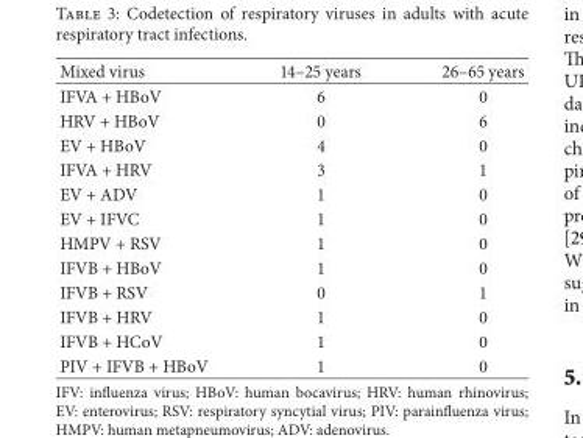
<table><thead><tr><td>Mixed virus</td><td>14–25 years</td><td>26–65 years</td></tr></thead><tbody><tr><td>IFVA + HBoV</td><td>6</td><td>0</td></tr><tr><td>HRV + HBoV</td><td>0</td><td>6</td></tr><tr><td>EV + HBoV</td><td>4</td><td>0</td></tr><tr><td>IFVA + HRV</td><td>3</td><td>1</td></tr><tr><td>EV + ADV</td><td>1</td><td>0</td></tr><tr><td>EV + IFVC</td><td>1</td><td>0</td></tr><tr><td>HMPV + RSV</td><td>1</td><td>0</td></tr><tr><td>IFVB + HBoV</td><td>1</td><td>0</td></tr><tr><td>IFVB + RSV</td><td>0</td><td>1</td></tr><tr><td>IFVB + HRV</td><td>1</td><td>0</td></tr><tr><td>IFVB + HCoV</td><td>1</td><td>0</td></tr><tr><td>PIV + IFVB + HBoV</td><td>1</td><td>0</td></tr></tbody></table>